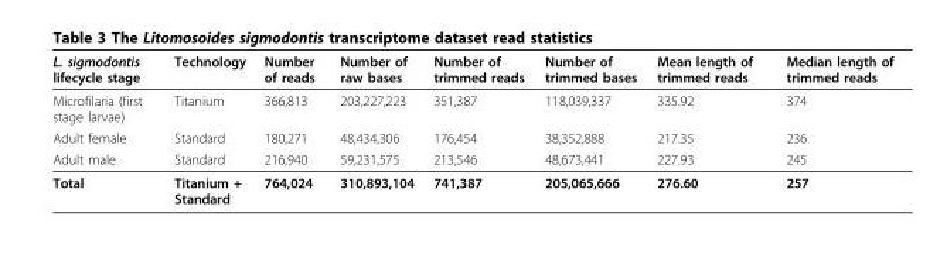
<table><thead><tr><td>L. sigmodontis lifecycle stage</td><td>Technology</td><td>Number of reads</td><td>Number of raw bases</td><td>Number of trimmed reads</td><td>Number of trimmed bases</td><td>Mean length of trimmed reads</td><td>Median length of trimmed reads</td></tr></thead><tbody><tr><td>Microfilaria (first stage larvae)</td><td>Titanium</td><td>366,813</td><td>203,227,223</td><td>351,387</td><td>118,039,337</td><td>335.92</td><td>374</td></tr><tr><td>Adult female</td><td>Standard</td><td>180,271</td><td>48,434,306</td><td>176,454</td><td>38,352,888</td><td>217.35</td><td>236</td></tr><tr><td>Adult male</td><td>Standard</td><td>216,940</td><td>59,231,575</td><td>213,546</td><td>48,673,441</td><td>227.93</td><td>245</td></tr><tr><td>Total</td><td>Titanium + Standard</td><td>764,024</td><td>310,893,104</td><td>741,387</td><td>205,065,666</td><td>276.60</td><td>257</td></tr></tbody></table>